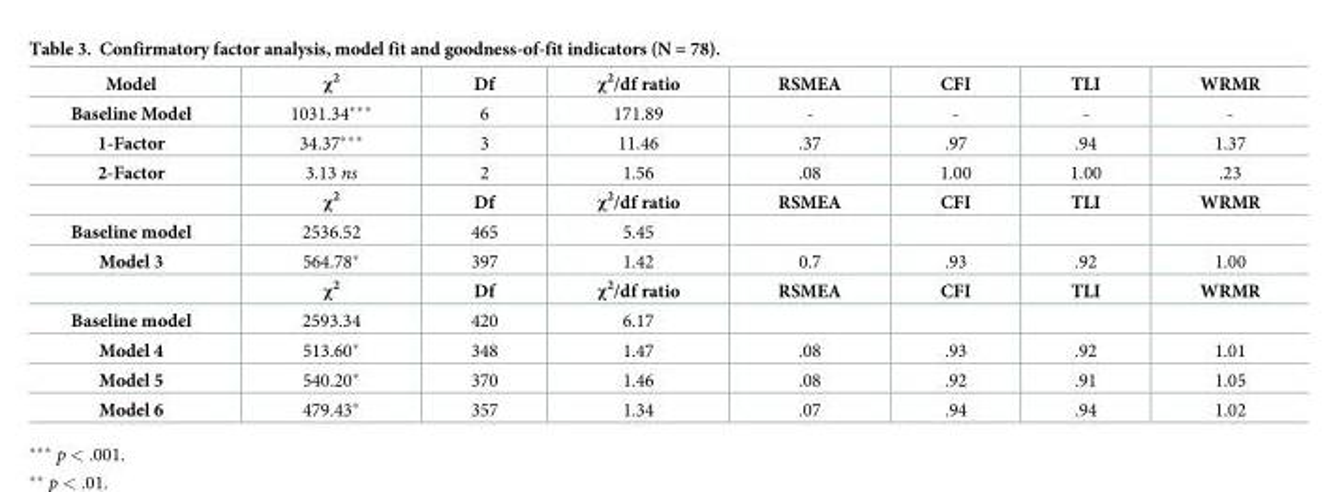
<table><tbody><tr><td>Model</td><td>χ<sup><sub>2</sub></sup></td><td>Df</td><td>χ<sup><sub>2</sub></sup>/df ratio</td><td>RSMEA</td><td>CFI</td><td>TLI</td><td>WRMR</td></tr><tr><td>Baseline Model</td><td>1031.34***</td><td>6</td><td>171.89</td><td>-</td><td>-</td><td>-</td><td>-</td></tr><tr><td>1-Factor</td><td>34.37***</td><td>3</td><td>11.46</td><td>.37</td><td>.97</td><td>.94</td><td>1.37</td></tr><tr><td rowspan="2">2-Factor</td><td>3.13 ns</td><td>2</td><td>1.56</td><td>.08</td><td>1.00</td><td>1.00</td><td>.23</td></tr><tr><td>χ<sup><sub>2</sub></sup></td><td>Df</td><td>χ<sup><sub>2</sub></sup>/df ratio</td><td>RSMEA</td><td>CFI</td><td>TLI</td><td>WRMR</td></tr><tr><td>Baseline model</td><td>2536.52</td><td>465</td><td>5.45</td><td></td><td></td><td></td><td></td></tr><tr><td rowspan="2">Model 3</td><td>564.78*</td><td>397</td><td>1.42</td><td>0.7</td><td>.93</td><td>.92</td><td>1.00</td></tr><tr><td>χ<sup><sub>2</sub></sup></td><td>Df</td><td>χ<sup><sub>2</sub></sup>/df ratio</td><td>RSMEA</td><td>CFI</td><td>TLI</td><td>WRMR</td></tr><tr><td>Baseline model</td><td>2593.34</td><td>420</td><td>6.17</td><td></td><td></td><td></td><td></td></tr><tr><td>Model 4</td><td>513.60*</td><td>348</td><td>1.47</td><td>.08</td><td>.93</td><td>.92</td><td>1.01</td></tr><tr><td>Model 5</td><td>540.20*</td><td>370</td><td>1.46</td><td>.08</td><td>.92</td><td>.91</td><td>1.05</td></tr><tr><td>Model 6</td><td>479.43*</td><td>357</td><td>1.34</td><td>.07</td><td>.94</td><td>.94</td><td>1.02</td></tr></tbody></table>